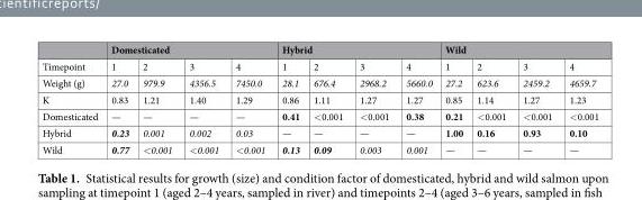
<table><thead><tr><td rowspan="2">Timepoint</td><td colspan="4">Domesticated</td><td colspan="4">Hybrid</td><td colspan="4">Wild</td></tr><tr><td>1</td><td>2</td><td>3</td><td>4</td><td>1</td><td>2</td><td>3</td><td>4</td><td>1</td><td>2</td><td>3</td><td>4</td></tr></thead><tbody><tr><td>Weight (g)</td><td>27.0</td><td>979.9</td><td>4356.5</td><td>7450.0</td><td>28.1</td><td>676.4</td><td>2968.2</td><td>5660.0</td><td>27.2</td><td>623.6</td><td>2459.2</td><td>4659.7</td></tr><tr><td>K</td><td>0.83</td><td>1.21</td><td>1.40</td><td>1.29</td><td>0.86</td><td>1.11</td><td>1.27</td><td>1.27</td><td>0.85</td><td>1.14</td><td>1.27</td><td>1.23</td></tr><tr><td>Domesticated</td><td>—</td><td>—</td><td>—</td><td>—</td><td>0.41</td><td>&lt;0.001</td><td>&lt;0.001</td><td>0.38</td><td>0.21</td><td>&lt;0.001</td><td>&lt;0.001</td><td>&lt;0.001</td></tr><tr><td>Hybrid</td><td>0.23</td><td>0.001</td><td>0.002</td><td>0.03</td><td>—</td><td>—</td><td>—</td><td>—</td><td>1.00</td><td>0.16</td><td>0.93</td><td>0.10</td></tr><tr><td>Wild</td><td>0.77</td><td>&lt;0.001</td><td>&lt;0.001</td><td>&lt;0.001</td><td>0.13</td><td>0.09</td><td>0.003</td><td>0.001</td><td>—</td><td>—</td><td>—</td><td>—</td></tr></tbody></table>